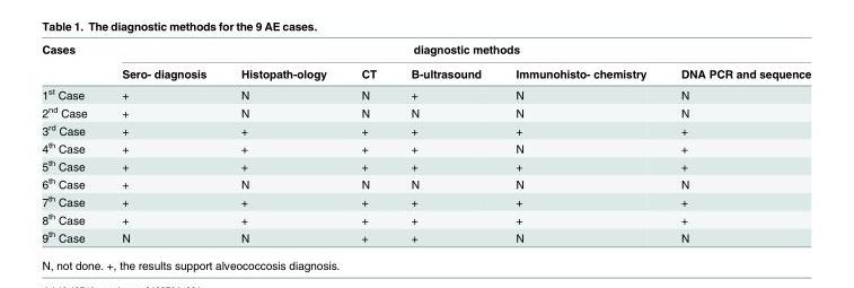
<table><thead><tr><td rowspan="2">Cases</td><td colspan="6">diagnostic methods</td></tr><tr><td>Sero- diagnosis</td><td>Histopath-ology</td><td>CT</td><td>B-ultrasound</td><td>Immunohisto- chemistry</td><td>DNA PCR and sequence</td></tr></thead><tbody><tr><td>1<sup>st</sup> Case</td><td>+</td><td>N</td><td>N</td><td>+</td><td>N</td><td>N</td></tr><tr><td>2<sup>nd</sup> Case</td><td>+</td><td>N</td><td>N</td><td>N</td><td>N</td><td>N</td></tr><tr><td>3<sup>rd</sup> Case</td><td>+</td><td>+</td><td>+</td><td>+</td><td>+</td><td>+</td></tr><tr><td>4<sup>th</sup> Case</td><td>+</td><td>+</td><td>+</td><td>+</td><td>N</td><td>+</td></tr><tr><td>5<sup>th</sup> Case</td><td>+</td><td>+</td><td>+</td><td>+</td><td>+</td><td>+</td></tr><tr><td>6<sup>th</sup> Case</td><td>+</td><td>N</td><td>N</td><td>N</td><td>N</td><td>N</td></tr><tr><td>7<sup>th</sup> Case</td><td>+</td><td>+</td><td>+</td><td>+</td><td>+</td><td>+</td></tr><tr><td>8<sup>th</sup> Case</td><td>+</td><td>+</td><td>+</td><td>+</td><td>+</td><td>+</td></tr><tr><td>9<sup>th</sup> Case</td><td>N</td><td>N</td><td>+</td><td>+</td><td>N</td><td>N</td></tr></tbody></table>